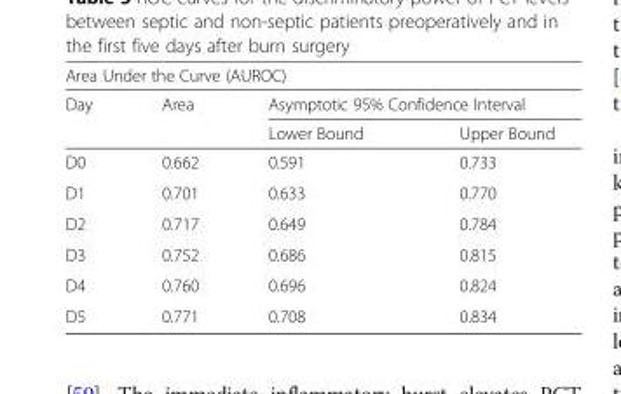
<table><thead><tr><td colspan="4">Area Under the Curve (AUROC)</td></tr><tr><td rowspan="2">Day</td><td rowspan="2">Area</td><td colspan="2">Asymptotic 95% Confidence Interval</td></tr><tr><td>Lower Bound</td><td>Upper Bound</td></tr></thead><tbody><tr><td>D0</td><td>0.662</td><td>0.591</td><td>0.733</td></tr><tr><td>D1</td><td>0.701</td><td>0.633</td><td>0.770</td></tr><tr><td>D2</td><td>0.717</td><td>0.649</td><td>0.784</td></tr><tr><td>D3</td><td>0.752</td><td>0.686</td><td>0.815</td></tr><tr><td>D4</td><td>0.760</td><td>0.696</td><td>0.824</td></tr><tr><td>D5</td><td>0.771</td><td>0.708</td><td>0.834</td></tr></tbody></table>